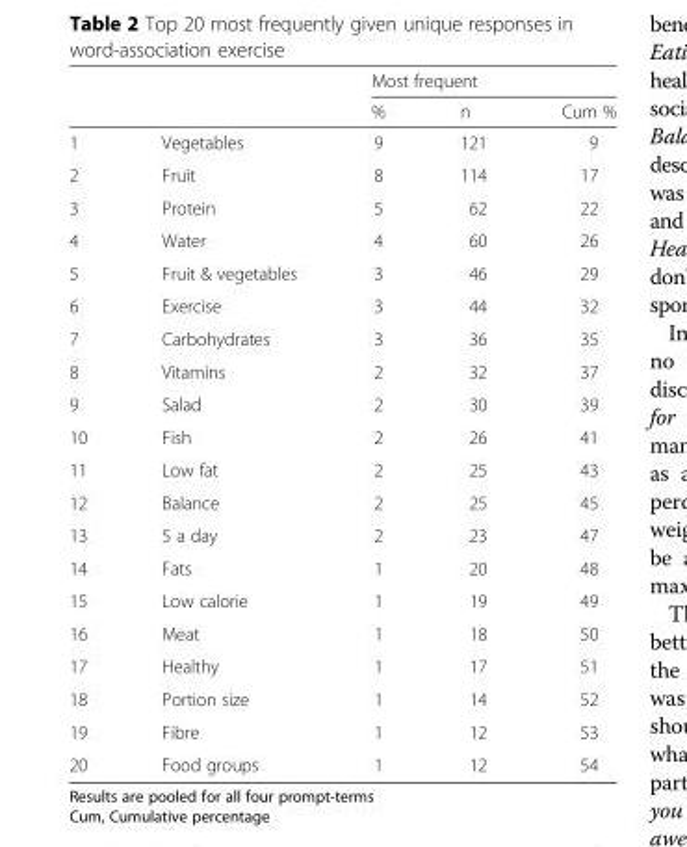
<table><thead><tr><td rowspan="2"></td><td rowspan="2"></td><td colspan="3">Most frequent</td></tr><tr><td>%</td><td>n</td><td>Cum %</td></tr></thead><tbody><tr><td>1</td><td>Vegetables</td><td>9</td><td>121</td><td>9</td></tr><tr><td>2</td><td>Fruit</td><td>8</td><td>114</td><td>17</td></tr><tr><td>3</td><td>Protein</td><td>5</td><td>62</td><td>22</td></tr><tr><td>4</td><td>Water</td><td>4</td><td>60</td><td>26</td></tr><tr><td>5</td><td>Fruit &amp; vegetables</td><td>3</td><td>46</td><td>29</td></tr><tr><td>6</td><td>Exercise</td><td>3</td><td>44</td><td>32</td></tr><tr><td>7</td><td>Carbohydrates</td><td>3</td><td>36</td><td>35</td></tr><tr><td>8</td><td>Vitamins</td><td>2</td><td>32</td><td>37</td></tr><tr><td>9</td><td>Salad</td><td>2</td><td>30</td><td>39</td></tr><tr><td>10</td><td>Fish</td><td>2</td><td>26</td><td>41</td></tr><tr><td>11</td><td>Low fat</td><td>2</td><td>25</td><td>43</td></tr><tr><td>12</td><td>Balance</td><td>2</td><td>25</td><td>45</td></tr><tr><td>13</td><td>5 a day</td><td>2</td><td>23</td><td>47</td></tr><tr><td>14</td><td>Fats</td><td>1</td><td>20</td><td>48</td></tr><tr><td>15</td><td>Low calorie</td><td>1</td><td>19</td><td>49</td></tr><tr><td>16</td><td>Meat</td><td>1</td><td>18</td><td>50</td></tr><tr><td>17</td><td>Healthy</td><td>1</td><td>17</td><td>51</td></tr><tr><td>18</td><td>Portion size</td><td>1</td><td>14</td><td>52</td></tr><tr><td>19</td><td>Fibre</td><td>1</td><td>12</td><td>53</td></tr><tr><td>20</td><td>Food groups</td><td>1</td><td>12</td><td>54</td></tr></tbody></table>